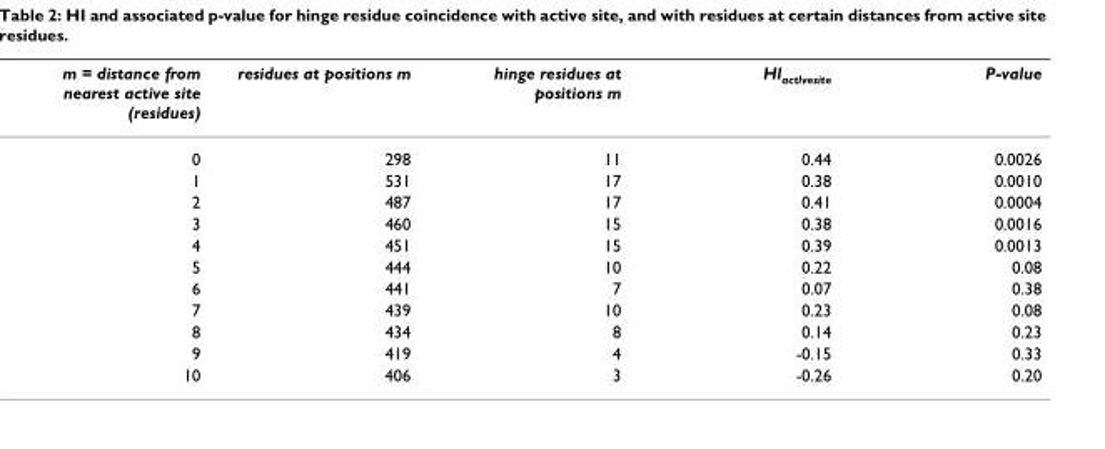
<table><thead><tr><td>m = distance from nearest active site (residues)</td><td>residues at positions m</td><td>hinge residues at positions m</td><td>Hl<sub>actlvesite</sub></td><td>P-value</td></tr></thead><tbody><tr><td>0</td><td>298</td><td>11</td><td>0.44</td><td>0.0026</td></tr><tr><td>1</td><td>531</td><td>17</td><td>0.38</td><td>0.0010</td></tr><tr><td>2</td><td>487</td><td>17</td><td>0.41</td><td>0.0004</td></tr><tr><td>3</td><td>460</td><td>15</td><td>0.38</td><td>0.0016</td></tr><tr><td>4</td><td>451</td><td>15</td><td>0.39</td><td>0.0013</td></tr><tr><td>5</td><td>444</td><td>10</td><td>0.22</td><td>0.08</td></tr><tr><td>6</td><td>441</td><td>7</td><td>0.07</td><td>0.38</td></tr><tr><td>7</td><td>439</td><td>10</td><td>0.23</td><td>0.08</td></tr><tr><td>8</td><td>434</td><td>8</td><td>0.14</td><td>0.23</td></tr><tr><td>9</td><td>419</td><td>4</td><td>-0.15</td><td>0.33</td></tr><tr><td>10</td><td>406</td><td>3</td><td>-0.26</td><td>0.20</td></tr></tbody></table>